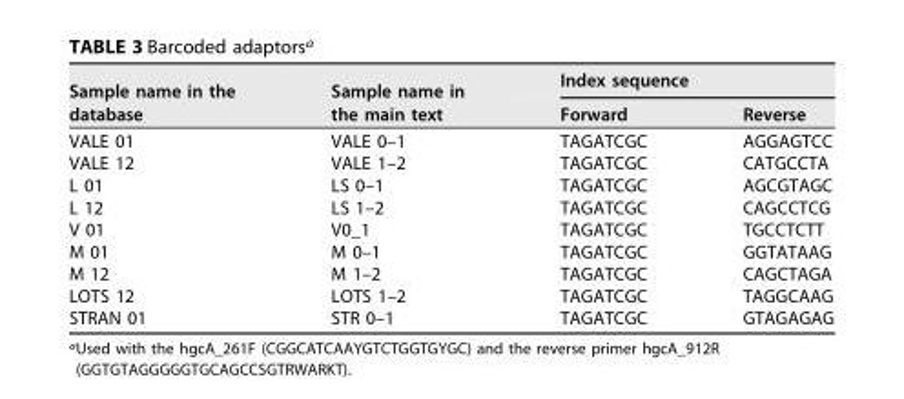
<table><thead><tr><td rowspan="2">Sample name in the database</td><td rowspan="2">Sample name in the main text</td><td colspan="2">Index sequence</td></tr><tr><td>Forward</td><td>Reverse</td></tr></thead><tbody><tr><td>VALE 01</td><td>VALE 0–1</td><td>TAGATCGC</td><td>AGGAGTCC</td></tr><tr><td>VALE 12</td><td>VALE 1–2</td><td>TAGATCGC</td><td>CATGCCTA</td></tr><tr><td>L 01</td><td>LS 0–1</td><td>TAGATCGC</td><td>AGCGTAGC</td></tr><tr><td>L 12</td><td>LS 1–2</td><td>TAGATCGC</td><td>CAGCCTCG</td></tr><tr><td>V 01</td><td>V0_1</td><td>TAGATCGC</td><td>TGCCTCTT</td></tr><tr><td>M 01</td><td>M 0–1</td><td>TAGATCGC</td><td>GGTATAAG</td></tr><tr><td>M 12</td><td>M 1–2</td><td>TAGATCGC</td><td>CAGCTAGA</td></tr><tr><td>LOTS 12</td><td>LOTS 1–2</td><td>TAGATCGC</td><td>TAGGCAAG</td></tr><tr><td>STRAN 01</td><td>STR 0–1</td><td>TAGATCGC</td><td>GTAGAGAG</td></tr></tbody></table>